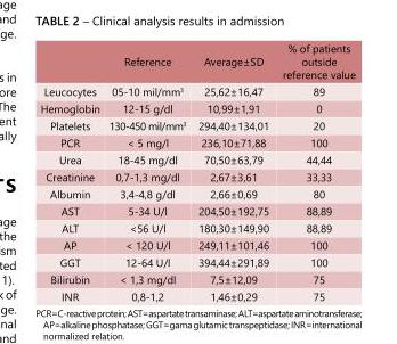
<table><thead><tr><td></td><td>Reference</td><td>Average±SD</td><td>% of patients outside reference value</td></tr></thead><tbody><tr><td>Leucocytes</td><td>05-10 mil/mm<sup>3</sup></td><td>25,62±16,47</td><td>89</td></tr><tr><td>Hemoglobin</td><td>12-15 g/dl</td><td>10,99±1,91</td><td>0</td></tr><tr><td>Platelets</td><td>130-450 mil/mm<sup>3</sup></td><td>294,40±134,01</td><td>20</td></tr><tr><td>PCR</td><td>&lt; 5 mg/l</td><td>236,10±71,88</td><td>100</td></tr><tr><td>Urea</td><td>18-45 mg/dl</td><td>70,50±63,79</td><td>44,44</td></tr><tr><td>Creatinine</td><td>0,7-1,3 mg/dl</td><td>2,67±3,61</td><td>33,33</td></tr><tr><td>Albumin</td><td>3,4-4,8 g/dl</td><td>2,66±0,69</td><td>80</td></tr><tr><td>AST</td><td>5-34 U/l</td><td>204,50±192,75</td><td>88,89</td></tr><tr><td>ALT</td><td>&lt;56 U/l</td><td>180,30±149,90</td><td>88,89</td></tr><tr><td>AP</td><td>&lt; 120 U/l</td><td>249,11±101,46</td><td>100</td></tr><tr><td>GGT</td><td>12-64 U/l</td><td>394,44±291,89</td><td>100</td></tr><tr><td>Bilirubin</td><td>&lt; 1,3 mg/dl</td><td>7,5±12,09</td><td>75</td></tr><tr><td>INR</td><td>0,8-1,2</td><td>1,46±0,29</td><td>75</td></tr></tbody></table>